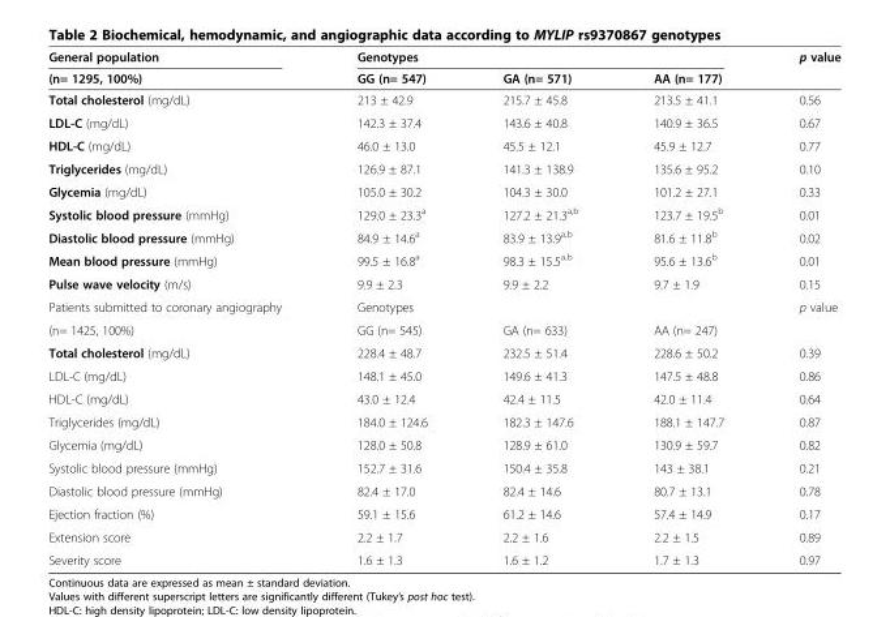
<table><thead><tr><td rowspan="2">General population (n= 1295, 100%)</td><td colspan="3">Genotypes</td><td rowspan="2">p value</td></tr><tr><td>GG (n= 547)</td><td>GA (n= 571)</td><td>AA (n= 177)</td></tr></thead><tbody><tr><td>Total cholesterol (mg/dL)</td><td>213 ± 42.9</td><td>215.7 ± 45.8</td><td>213.5 ± 41.1</td><td>0.56</td></tr><tr><td>LDL-C (mg/dL)</td><td>142.3 ± 37.4</td><td>143.6 ± 40.8</td><td>140.9 ± 36.5</td><td>0.67</td></tr><tr><td>HDL-C (mg/dL)</td><td>46.0 ± 13.0</td><td>45.5 ± 12.1</td><td>45.9 ± 12.7</td><td>0.77</td></tr><tr><td>Triglycerides (mg/dL)</td><td>126.9 ± 87.1</td><td>141.3 ± 138.9</td><td>135.6 ± 95.2</td><td>0.10</td></tr><tr><td>Glycemia (mg/dL)</td><td>105.0 ± 30.2</td><td>104.3 ± 30.0</td><td>101.2 ± 27.1</td><td>0.33</td></tr><tr><td>Systolic blood pressure (mmHg)</td><td>129.0 ± 23.3<sup>a</sup></td><td>127.2 ± 21.3<sup>a,b</sup></td><td>123.7 ± 19.5<sup>b</sup></td><td>0.01</td></tr><tr><td>Diastolic blood pressure (mmHg)</td><td>84.9 ± 14.6<sup>a</sup></td><td>83.9 ± 13.9<sup>a,b</sup></td><td>81.6 ± 11.8<sup>b</sup></td><td>0.02</td></tr><tr><td>Mean blood pressure (mmHg)</td><td>99.5 ± 16.8<sup>a</sup></td><td>98.3 ± 15.5<sup>a,b</sup></td><td>95.6 ± 13.6<sup>b</sup></td><td>0.01</td></tr><tr><td>Pulse wave velocity (m/s)</td><td>9.9 ± 2.3</td><td>9.9 ± 2.2</td><td>9.7 ± 1.9</td><td>0.15</td></tr><tr><td>Patients submitted to coronary angiography</td><td colspan="3">Genotypes</td><td>p value</td></tr><tr><td>(n= 1425, 100%)</td><td>GG (n= 545)</td><td>GA (n= 633)</td><td>AA (n= 247)</td><td></td></tr><tr><td>Total cholesterol (mg/dL)</td><td>228.4 ± 48.7</td><td>232.5 ± 51.4</td><td>228.6 ± 50.2</td><td>0.39</td></tr><tr><td>LDL-C (mg/dL)</td><td>148.1 ± 45.0</td><td>149.6 ± 41.3</td><td>147.5 ± 48.8</td><td>0.86</td></tr><tr><td>HDL-C (mg/dL)</td><td>43.0 ± 12.4</td><td>42.4 ± 11.5</td><td>42.0 ± 11.4</td><td>0.64</td></tr><tr><td>Triglycerides (mg/dL)</td><td>184.0 ± 124.6</td><td>182.3 ± 147.6</td><td>188.1 ± 147.7</td><td>0.87</td></tr><tr><td>Glycemia (mg/dL)</td><td>128.0 ± 50.8</td><td>128.9 ± 61.0</td><td>130.9 ± 59.7</td><td>0.82</td></tr><tr><td>Systolic blood pressure (mmHg)</td><td>152.7 ± 31.6</td><td>150.4 ± 35.8</td><td>143 ± 38.1</td><td>0.21</td></tr><tr><td>Diastolic blood pressure (mmHg)</td><td>82.4 ± 17.0</td><td>82.4 ± 14.6</td><td>80.7 ± 13.1</td><td>0.78</td></tr><tr><td>Ejection fraction (%)</td><td>59.1 ± 15.6</td><td>61.2 ± 14.6</td><td>57.4 ± 14.9</td><td>0.17</td></tr><tr><td>Extension score</td><td>2.2 ± 1.7</td><td>2.2 ± 1.6</td><td>2.2 ± 1.5</td><td>0.89</td></tr><tr><td>Severity score</td><td>1.6 ± 1.3</td><td>1.6 ± 1.2</td><td>1.7 ± 1.3</td><td>0.97</td></tr></tbody></table>